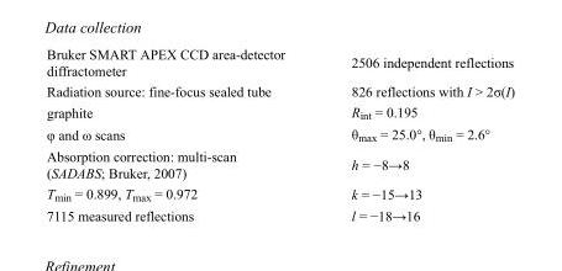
<table><tbody><tr><td>Bruker SMART APEX CCD area-detector diffractometer</td><td>2506 independent reflections</td></tr><tr><td>Radiation source: fine-focus sealed tube</td><td>826 reflections with I &gt; 2σ(I)</td></tr><tr><td>graphite</td><td>R<sub>int</sub> = 0.195</td></tr><tr><td>φ and ω scans</td><td>θ<sub>max</sub> = 25.0°, θ<sub>min</sub> = 2.6°</td></tr><tr><td>Absorption correction: multi-scan (SADABS; Bruker, 2007)</td><td>h = −8→8</td></tr><tr><td>T<sub>min</sub> = 0.899, T<sub>max</sub> = 0.972</td><td>k = −15→13</td></tr><tr><td>7115 measured reflections</td><td>l = −18→16</td></tr></tbody></table>